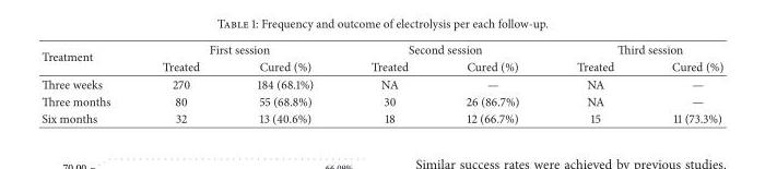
<table><thead><tr><td rowspan="2">Treatment</td><td colspan="2">First session</td><td colspan="2">Second session</td><td colspan="2">Third session</td></tr><tr><td>Treated</td><td>Cured (%)</td><td>Treated</td><td>Cured (%)</td><td>Treated</td><td>Cured (%)</td></tr></thead><tbody><tr><td>Three weeks</td><td>270</td><td>184 (68.1%)</td><td>NA</td><td>—</td><td>NA</td><td>—</td></tr><tr><td>Three months</td><td>80</td><td>55 (68.8%)</td><td>30</td><td>26 (86.7%)</td><td>NA</td><td>—</td></tr><tr><td>Six months</td><td>32</td><td>13 (40.6%)</td><td>18</td><td>12 (66.7%)</td><td>15</td><td>11 (73.3%)</td></tr></tbody></table>